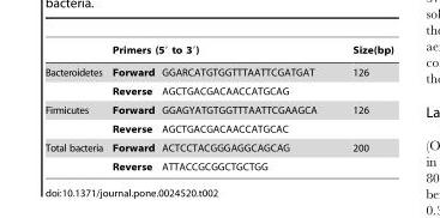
<table><thead><tr><td rowspan="2">Bacteroidetes</td><td colspan="2">Primers (5′ to 3′)</td><td rowspan="2">Size(bp) 126</td></tr><tr><td>Forward</td><td>GGARCATGTGGTTTAATTCGATGAT</td></tr></thead><tbody><tr><td></td><td>Reverse</td><td>AGCTGACGACAACCATGCAG</td><td></td></tr><tr><td rowspan="2">Firmicutes</td><td>Forward</td><td>GGAGYATGTGGTTTAATTCGAAGCA</td><td>126</td></tr><tr><td>Reverse</td><td>AGCTGACGACAACCATGCAC</td><td></td></tr><tr><td rowspan="2">Total bacteria</td><td>Forward</td><td>ACTCCTACGGGAGGCAGCAG</td><td>200</td></tr><tr><td>Reverse</td><td>ATTACCGCGGCTGCTGG</td><td></td></tr></tbody></table>